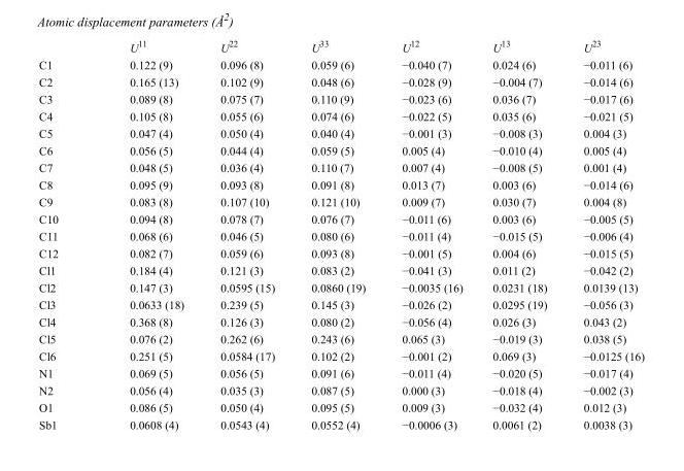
<table><thead><tr><td></td><td>U<sup>11</sup></td><td>U<sup>22</sup></td><td>U<sup>33</sup></td><td>U<sup>12</sup></td><td>U<sup>13</sup></td><td>U<sup>23</sup></td></tr></thead><tbody><tr><td>C1</td><td>0.122 (9)</td><td>0.096 (8)</td><td>0.059 (6)</td><td>−0.040 (7)</td><td>0.024 (6)</td><td>−0.011 (6)</td></tr><tr><td>C2</td><td>0.165 (13)</td><td>0.102 (9)</td><td>0.048 (6)</td><td>−0.028 (9)</td><td>−0.004 (7)</td><td>−0.014 (6)</td></tr><tr><td>C3</td><td>0.089 (8)</td><td>0.075 (7)</td><td>0.110 (9)</td><td>−0.023 (6)</td><td>0.036 (7)</td><td>−0.017 (6)</td></tr><tr><td>C4</td><td>0.105 (8)</td><td>0.055 (6)</td><td>0.074 (6)</td><td>−0.022 (5)</td><td>0.035 (6)</td><td>−0.021 (5)</td></tr><tr><td>C5</td><td>0.047 (4)</td><td>0.050 (4)</td><td>0.040 (4)</td><td>−0.001 (3)</td><td>−0.008 (3)</td><td>0.004 (3)</td></tr><tr><td>C6</td><td>0.056 (5)</td><td>0.044 (4)</td><td>0.059 (5)</td><td>0.005 (4)</td><td>−0.010 (4)</td><td>0.005 (4)</td></tr><tr><td>C7</td><td>0.048 (5)</td><td>0.036 (4)</td><td>0.110 (7)</td><td>0.007 (4)</td><td>−0.008 (5)</td><td>0.001 (4)</td></tr><tr><td>C8</td><td>0.095 (9)</td><td>0.093 (8)</td><td>0.091 (8)</td><td>0.013 (7)</td><td>0.003 (6)</td><td>−0.014 (6)</td></tr><tr><td>C9</td><td>0.083 (8)</td><td>0.107 (10)</td><td>0.121 (10)</td><td>0.009 (7)</td><td>0.030 (7)</td><td>0.004 (8)</td></tr><tr><td>C10</td><td>0.094 (8)</td><td>0.078 (7)</td><td>0.076 (7)</td><td>−0.011 (6)</td><td>0.003 (6)</td><td>−0.005 (5)</td></tr><tr><td>C11</td><td>0.068 (6)</td><td>0.046 (5)</td><td>0.080 (6)</td><td>−0.011 (4)</td><td>−0.015 (5)</td><td>−0.006 (4)</td></tr><tr><td>C12</td><td>0.082 (7)</td><td>0.059 (6)</td><td>0.093 (8)</td><td>−0.001 (5)</td><td>0.004 (6)</td><td>−0.015 (5)</td></tr><tr><td>Cl1</td><td>0.184 (4)</td><td>0.121 (3)</td><td>0.083 (2)</td><td>−0.041 (3)</td><td>0.011 (2)</td><td>−0.042 (2)</td></tr><tr><td>Cl2</td><td>0.147 (3)</td><td>0.0595 (15)</td><td>0.0860 (19)</td><td>−0.0035 (16)</td><td>0.0231 (18)</td><td>0.0139 (13)</td></tr><tr><td>Cl3</td><td>0.0633 (18)</td><td>0.239 (5)</td><td>0.145 (3)</td><td>−0.026 (2)</td><td>0.0295 (19)</td><td>−0.056 (3)</td></tr><tr><td>Cl4</td><td>0.368 (8)</td><td>0.126 (3)</td><td>0.080 (2)</td><td>−0.056 (4)</td><td>0.026 (3)</td><td>0.043 (2)</td></tr><tr><td>Cl5</td><td>0.076 (2)</td><td>0.262 (6)</td><td>0.243 (6)</td><td>0.065 (3)</td><td>−0.019 (3)</td><td>0.038 (5)</td></tr><tr><td>Cl6</td><td>0.251 (5)</td><td>0.0584 (17)</td><td>0.102 (2)</td><td>−0.001 (2)</td><td>0.069 (3)</td><td>−0.0125 (16)</td></tr><tr><td>N1</td><td>0.069 (5)</td><td>0.056 (5)</td><td>0.091 (6)</td><td>−0.011 (4)</td><td>−0.020 (5)</td><td>−0.017 (4)</td></tr><tr><td>N2</td><td>0.056 (4)</td><td>0.035 (3)</td><td>0.087 (5)</td><td>0.000 (3)</td><td>−0.018 (4)</td><td>−0.002 (3)</td></tr><tr><td>O1</td><td>0.086 (5)</td><td>0.050 (4)</td><td>0.095 (5)</td><td>0.009 (3)</td><td>−0.032 (4)</td><td>0.012 (3)</td></tr><tr><td>Sb1</td><td>0.0608 (4)</td><td>0.0543 (4)</td><td>0.0552 (4)</td><td>−0.0006 (3)</td><td>0.0061 (2)</td><td>0.0038 (3)</td></tr></tbody></table>